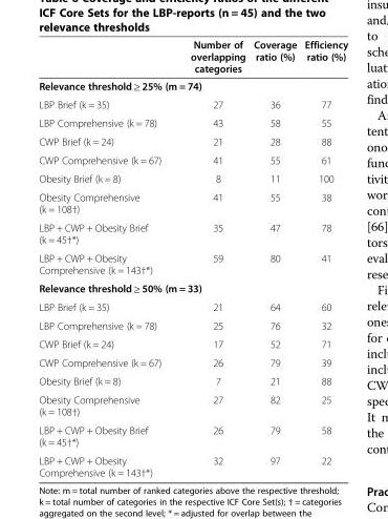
<table><thead><tr><td></td><td>Number of overlapping categories</td><td>Coverage ratio (%)</td><td>Efficiency ratio (%)</td></tr></thead><tbody><tr><td colspan="4">Relevance threshold ≥ 25% (m = 74)</td></tr><tr><td>LBP Brief (k = 35)</td><td>27</td><td>36</td><td>77</td></tr><tr><td>LBP Comprehensive (k = 78)</td><td>43</td><td>58</td><td>55</td></tr><tr><td>CWP Brief (k = 24)</td><td>21</td><td>28</td><td>88</td></tr><tr><td>CWP Comprehensive (k = 67)</td><td>41</td><td>55</td><td>61</td></tr><tr><td>Obesity Brief (k = 8)</td><td>8</td><td>11</td><td>100</td></tr><tr><td>Obesity Comprehensive (k = 108†)</td><td>41</td><td>55</td><td>38</td></tr><tr><td>LBP + CWP + Obesity Brief (k = 45†*)</td><td>35</td><td>47</td><td>78</td></tr><tr><td>LBP + CWP + Obesity Comprehensive (k = 143†*)</td><td>59</td><td>80</td><td>41</td></tr><tr><td colspan="4">Relevance threshold ≥ 50% (m = 33)</td></tr><tr><td>LBP Brief (k = 35)</td><td>21</td><td>64</td><td>60</td></tr><tr><td>LBP Comprehensive (k = 78)</td><td>25</td><td>76</td><td>32</td></tr><tr><td>CWP Brief (k = 24)</td><td>17</td><td>52</td><td>71</td></tr><tr><td>CWP Comprehensive (k = 67)</td><td>26</td><td>79</td><td>39</td></tr><tr><td>Obesity Brief (k = 8)</td><td>7</td><td>21</td><td>88</td></tr><tr><td>Obesity Comprehensive (k = 108†)</td><td>27</td><td>82</td><td>25</td></tr><tr><td>LBP + CWP + Obesity Brief (k = 45†*)</td><td>26</td><td>79</td><td>58</td></tr><tr><td>LBP + CWP + Obesity Comprehensive (k = 143†*)</td><td>32</td><td>97</td><td>22</td></tr></tbody></table>